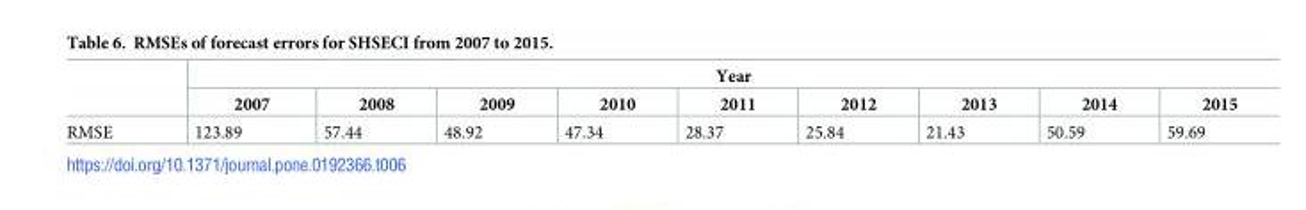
<table><thead><tr><td rowspan="2"></td><td colspan="9">Year</td></tr><tr><td>2007</td><td>2008</td><td>2009</td><td>2010</td><td>2011</td><td>2012</td><td>2013</td><td>2014</td><td>2015</td></tr></thead><tbody><tr><td>RMSE</td><td>123.89</td><td>57.44</td><td>48.92</td><td>47.34</td><td>28.37</td><td>25.84</td><td>21.43</td><td>50.59</td><td>59.69</td></tr></tbody></table>